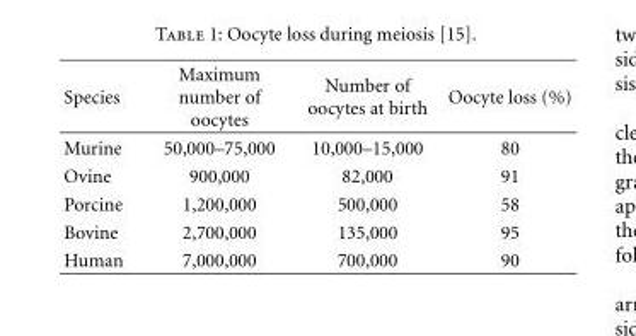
<table><thead><tr><td>Species</td><td>Maximum number of oocytes</td><td>Number of oocytes at birth</td><td>Oocyte loss (%)</td></tr></thead><tbody><tr><td>Murine</td><td>50,000–75,000</td><td>10,000–15,000</td><td>80</td></tr><tr><td>Ovine</td><td>900,000</td><td>82,000</td><td>91</td></tr><tr><td>Porcine</td><td>1,200,000</td><td>500,000</td><td>58</td></tr><tr><td>Bovine</td><td>2,700,000</td><td>135,000</td><td>95</td></tr><tr><td>Human</td><td>7,000,000</td><td>700,000</td><td>90</td></tr></tbody></table>